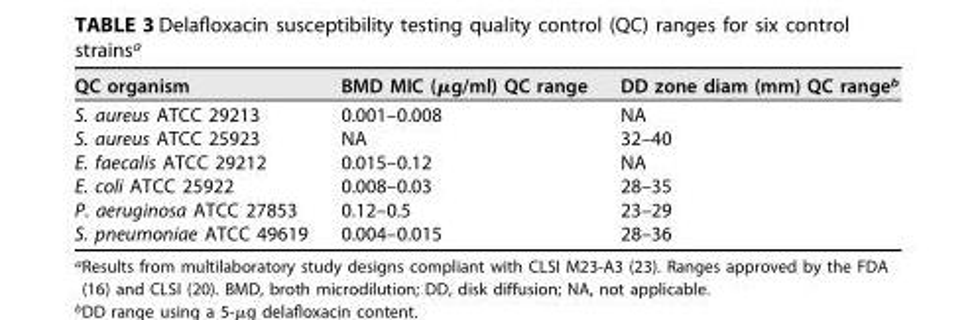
<table><thead><tr><td>QC organism</td><td>BMD MIC (μg/ml) QC range</td><td>DD zone diam (mm) QC range<sup>b</sup></td></tr></thead><tbody><tr><td>S. aureus ATCC 29213</td><td>0.001–0.008</td><td>NA</td></tr><tr><td>S. aureus ATCC 25923</td><td>NA</td><td>32–40</td></tr><tr><td>E. faecalis ATCC 29212</td><td>0.015–0.12</td><td>NA</td></tr><tr><td>E. coli ATCC 25922</td><td>0.008–0.03</td><td>28–35</td></tr><tr><td>P. aeruginosa ATCC 27853</td><td>0.12–0.5</td><td>23–29</td></tr><tr><td>S. pneumoniae ATCC 49619</td><td>0.004–0.015</td><td>28–36</td></tr></tbody></table>